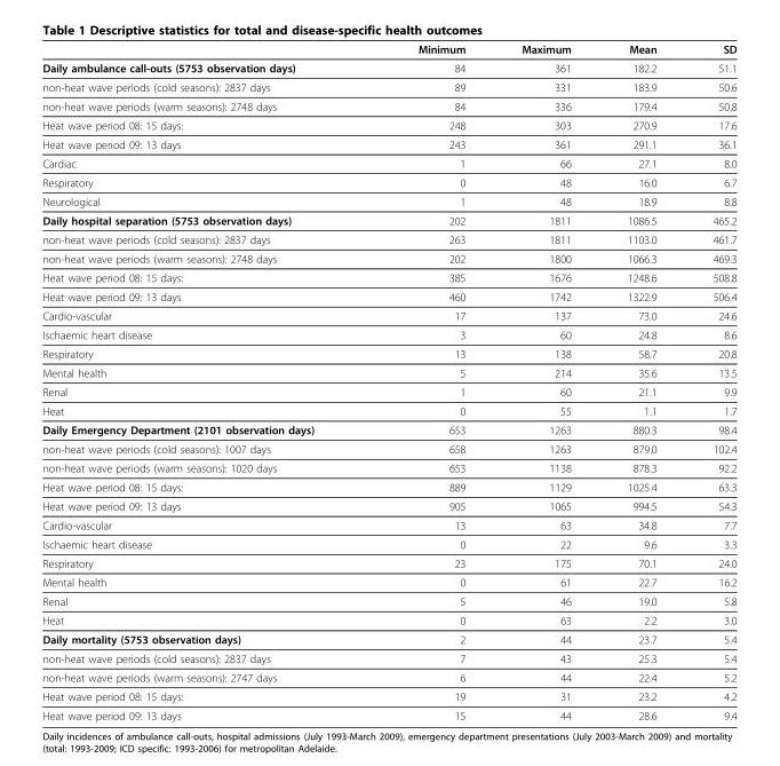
<table><thead><tr><td></td><td>Minimum</td><td>Maximum</td><td>Mean</td><td>SD</td></tr></thead><tbody><tr><td>Daily ambulance call-outs (5753 observation days)</td><td>84</td><td>361</td><td>182.2</td><td>51.1</td></tr><tr><td>non-heat wave periods (cold seasons): 2837 days</td><td>89</td><td>331</td><td>183.9</td><td>50.6</td></tr><tr><td>non-heat wave periods (warm seasons): 2748 days</td><td>84</td><td>336</td><td>179.4</td><td>50.8</td></tr><tr><td>Heat wave period 08: 15 days:</td><td>248</td><td>303</td><td>270.9</td><td>17.6</td></tr><tr><td>Heat wave period 09: 13 days</td><td>243</td><td>361</td><td>291.1</td><td>36.1</td></tr><tr><td>Cardiac</td><td>1</td><td>66</td><td>27.1</td><td>8.0</td></tr><tr><td>Respiratory</td><td>0</td><td>48</td><td>16.0</td><td>6.7</td></tr><tr><td>Neurological</td><td>1</td><td>48</td><td>18.9</td><td>8.8</td></tr><tr><td>Daily hospital separation (5753 observation days)</td><td>202</td><td>1811</td><td>1086.5</td><td>465.2</td></tr><tr><td>non-heat wave periods (cold seasons): 2837 days</td><td>263</td><td>1811</td><td>1103.0</td><td>461.7</td></tr><tr><td>non-heat wave periods (warm seasons): 2748 days</td><td>202</td><td>1800</td><td>1066.3</td><td>469.3</td></tr><tr><td>Heat wave period 08: 15 days:</td><td>385</td><td>1676</td><td>1248.6</td><td>508.8</td></tr><tr><td>Heat wave period 09: 13 days</td><td>460</td><td>1742</td><td>1322.9</td><td>506.4</td></tr><tr><td>Cardio-vascular</td><td>17</td><td>137</td><td>73.0</td><td>24.6</td></tr><tr><td>Ischaemic heart disease</td><td>3</td><td>60</td><td>24.8</td><td>8.6</td></tr><tr><td>Respiratory</td><td>13</td><td>138</td><td>58.7</td><td>20.8</td></tr><tr><td>Mental health</td><td>5</td><td>214</td><td>35.6</td><td>13.5</td></tr><tr><td>Renal</td><td>1</td><td>60</td><td>21.1</td><td>9.9</td></tr><tr><td>Heat</td><td>0</td><td>55</td><td>1.1</td><td>1.7</td></tr><tr><td>Daily Emergency Department (2101 observation days)</td><td>653</td><td>1263</td><td>880.3</td><td>98.4</td></tr><tr><td>non-heat wave periods (cold seasons): 1007 days</td><td>658</td><td>1263</td><td>879.0</td><td>102.4</td></tr><tr><td>non-heat wave periods (warm seasons): 1020 days</td><td>653</td><td>1138</td><td>878.3</td><td>92.2</td></tr><tr><td>Heat wave period 08: 15 days:</td><td>889</td><td>1129</td><td>1025.4</td><td>63.3</td></tr><tr><td>Heat wave period 09: 13 days</td><td>905</td><td>1065</td><td>994.5</td><td>54.3</td></tr><tr><td>Cardio-vascular</td><td>13</td><td>63</td><td>34.8</td><td>7.7</td></tr><tr><td>Ischaemic heart disease</td><td>0</td><td>22</td><td>9.6</td><td>3.3</td></tr><tr><td>Respiratory</td><td>23</td><td>175</td><td>70.1</td><td>24.0</td></tr><tr><td>Mental health</td><td>0</td><td>61</td><td>22.7</td><td>16.2</td></tr><tr><td>Renal</td><td>5</td><td>46</td><td>19.0</td><td>5.8</td></tr><tr><td>Heat</td><td>0</td><td>63</td><td>2.2</td><td>3.0</td></tr><tr><td>Daily mortality (5753 observation days)</td><td>2</td><td>44</td><td>23.7</td><td>5.4</td></tr><tr><td>non-heat wave periods (cold seasons): 2837 days</td><td>7</td><td>43</td><td>25.3</td><td>5.4</td></tr><tr><td>non-heat wave periods (warm seasons): 2747 days</td><td>6</td><td>44</td><td>22.4</td><td>5.2</td></tr><tr><td>Heat wave period 08: 15 days:</td><td>19</td><td>31</td><td>23.2</td><td>4.2</td></tr><tr><td>Heat wave period 09: 13 days</td><td>15</td><td>44</td><td>28.6</td><td>9.4</td></tr></tbody></table>